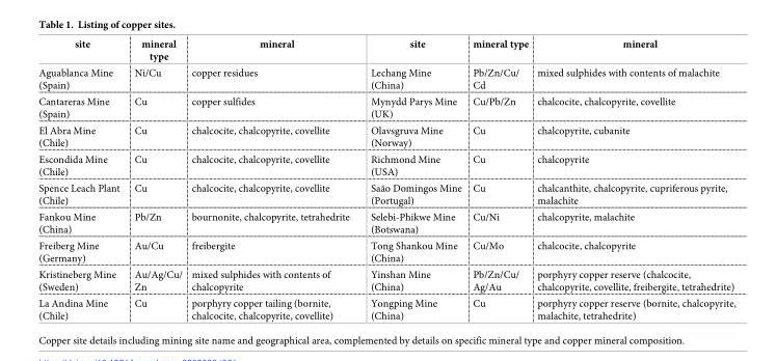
<table><thead><tr><td>site</td><td>mineral type</td><td>mineral</td><td>site</td><td>mineral type</td><td>mineral</td></tr></thead><tbody><tr><td>Aguablanca Mine (Spain)</td><td>Ni/Cu</td><td>copper residues</td><td>Lechang Mine (China)</td><td>Pb/Zn/Cu/ Cd</td><td>mixed sulphides with contents of malachite</td></tr><tr><td>Cantareras Mine (Spain)</td><td>Cu</td><td>copper sulfides</td><td>Mynydd Parys Mine (UK)</td><td>Cu/Pb/Zn</td><td>chalcocite, chalcopyrite, covellite</td></tr><tr><td>El Abra Mine (Chile)</td><td>Cu</td><td>chalcocite, chalcopyrite, covellite</td><td>Olavsgruva Mine (Norway)</td><td>Cu</td><td>chalcopyrite, cubanite</td></tr><tr><td>Escondida Mine (Chile)</td><td>Cu</td><td>chalcocite, chalcopyrite, covellite</td><td>Richmond Mine (USA)</td><td>Cu</td><td>chalcopyrite</td></tr><tr><td>Spence Leach Plant (Chile)</td><td>Cu</td><td>chalcocite, chalcopyrite, covellite</td><td>Saão Domingos Mine (Portugal)</td><td>Cu</td><td>chalcanthite, chalcopyrite, cupriferous pyrite, malachite</td></tr><tr><td>Fankou Mine (China)</td><td>Pb/Zn</td><td>bournonite, chalcopyrite, tetrahedrite</td><td>Selebi-Phikwe Mine (Botswana)</td><td>Cu/Ni</td><td>chalcopyrite, malachite</td></tr><tr><td>Freiberg Mine (Germany)</td><td>Au/Cu</td><td>freibergite</td><td>Tong Shankou Mine (China)</td><td>Cu/Mo</td><td>chalcocite, chalcopyrite</td></tr><tr><td>Kristineberg Mine (Sweden)</td><td>Au/Ag/Cu/ Zn</td><td>mixed sulphides with contents of chalcopyrite</td><td>Yinshan Mine (China)</td><td>Pb/Zn/Cu/ Ag/Au</td><td>porphyry copper reserve (chalcocite, chalcopyrite, covellite, freibergite, tetrahedrite)</td></tr><tr><td>La Andina Mine (Chile)</td><td>Cu</td><td>porphyry copper tailing (bornite, chalcocite, chalcopyrite, covellite)</td><td>Yongping Mine (China)</td><td>Cu</td><td>porphyry copper reserve (bornite, chalcopyrite, malachite, tetrahedrite)</td></tr></tbody></table>